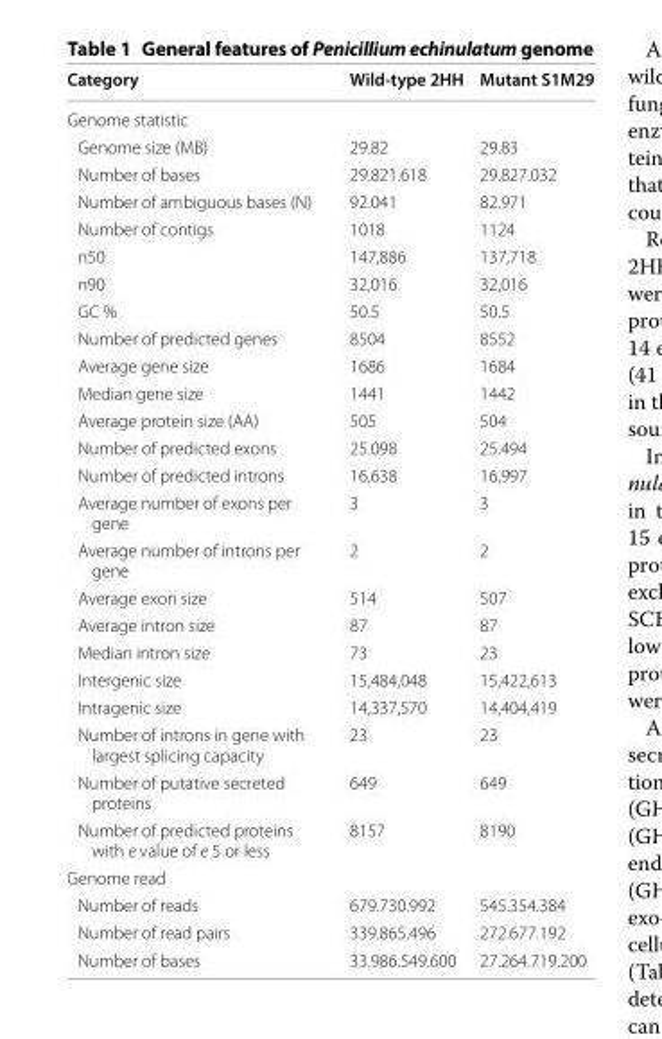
<table><thead><tr><td>Category</td><td>Wild-type 2HH</td><td>Mutant S1M29</td></tr></thead><tbody><tr><td colspan="3">Genome statistic</td></tr><tr><td>Genome size (MB)</td><td>29.82</td><td>29.83</td></tr><tr><td>Number of bases</td><td>29.821.618</td><td>29.827.032</td></tr><tr><td>Number of ambiguous bases (N)</td><td>92.041</td><td>82.971</td></tr><tr><td>Number of contigs</td><td>1018</td><td>1124</td></tr><tr><td>n50</td><td>147,886</td><td>137,718</td></tr><tr><td>n90</td><td>32,016</td><td>32,016</td></tr><tr><td>GC %</td><td>50.5</td><td>50.5</td></tr><tr><td>Number of predicted genes</td><td>8504</td><td>8552</td></tr><tr><td>Average gene size</td><td>1686</td><td>1684</td></tr><tr><td>Median gene size</td><td>1441</td><td>1442</td></tr><tr><td>Average protein size (AA)</td><td>505</td><td>504</td></tr><tr><td>Number of predicted exons</td><td>25.098</td><td>25.494</td></tr><tr><td>Number of predicted introns</td><td>16,638</td><td>16,997</td></tr><tr><td>Average number of exons per gene</td><td>3</td><td>3</td></tr><tr><td>Average number of introns per gene</td><td>2</td><td>2</td></tr><tr><td>Average exon size</td><td>514</td><td>507</td></tr><tr><td>Average intron size</td><td>87</td><td>87</td></tr><tr><td>Median intron size</td><td>73</td><td>23</td></tr><tr><td>Intergenic size</td><td>15,484,048</td><td>15,422,613</td></tr><tr><td>Intragenic size</td><td>14,337,570</td><td>14,404,419</td></tr><tr><td>Number of introns in gene with largest splicing capacity</td><td>23</td><td>23</td></tr><tr><td>Number of putative secreted proteins</td><td>649</td><td>649</td></tr><tr><td>Number of predicted proteins with e value of e 5 or less</td><td>8157</td><td>8190</td></tr><tr><td colspan="3">Genome read</td></tr><tr><td>Number of reads</td><td>679.730.992</td><td>545.354.384</td></tr><tr><td>Number of read pairs</td><td>339.865.496</td><td>272.677.192</td></tr><tr><td>Number of bases</td><td>33.986.549.600</td><td>27.264.719.200</td></tr></tbody></table>